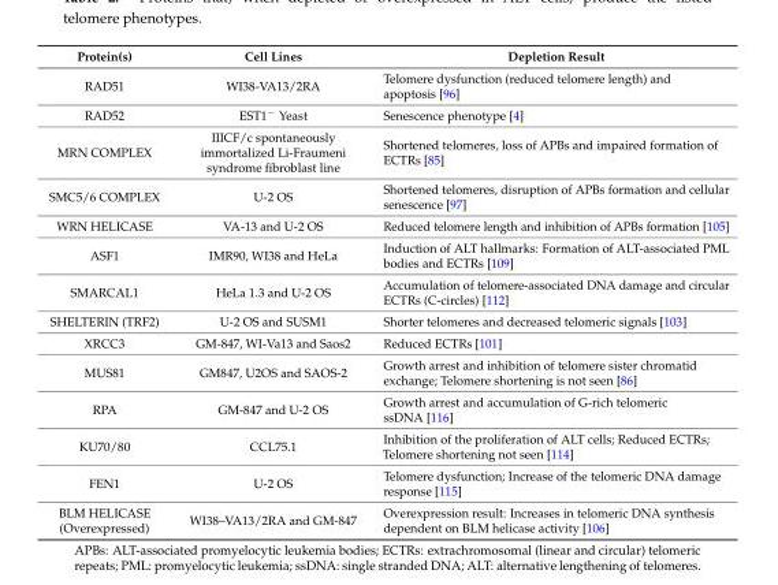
<table><thead><tr><td>Protein(s)</td><td>Cell Lines</td><td>Depletion Result</td></tr></thead><tbody><tr><td>RAD51</td><td>WI38-VA13/2RA</td><td>Telomere dysfunction (reduced telomere length) and apoptosis [96]</td></tr><tr><td>RAD52</td><td>EST1<sup>−</sup> Yeast</td><td>Senescence phenotype [4]</td></tr><tr><td>MRN COMPLEX</td><td>IIICF/c spontaneously immortalized Li-Fraumeni syndrome fibroblast line</td><td>Shortened telomeres, loss of APBs and impaired formation of ECTRs [85]</td></tr><tr><td>SMC5/6 COMPLEX</td><td>U-2 OS</td><td>Shortened telomeres, disruption of APBs formation and cellular senescence [97]</td></tr><tr><td>WRN HELICASE</td><td>VA-13 and U-2 OS</td><td>Reduced telomere length and inhibition of APBs formation [105]</td></tr><tr><td>ASF1</td><td>IMR90, WI38 and HeLa</td><td>Induction of ALT hallmarks: Formation of ALT-associated PML bodies and ECTRs [109]</td></tr><tr><td>SMARCAL1</td><td>HeLa 1.3 and U-2 OS</td><td>Accumulation of telomere-associated DNA damage and circular ECTRs (C-circles) [112]</td></tr><tr><td>SHELTERIN (TRF2)</td><td>U-2 OS and SUSM1</td><td>Shorter telomeres and decreased telomeric signals [103]</td></tr><tr><td>XRCC3</td><td>GM-847, WI-Va13 and Saos2</td><td>Reduced ECTRs [101]</td></tr><tr><td>MUS81</td><td>GM847, U2OS and SAOS-2</td><td>Growth arrest and inhibition of telomere sister chromatid exchange; Telomere shortening is not seen [86]</td></tr><tr><td>RPA</td><td>GM-847 and U-2 OS</td><td>Growth arrest and accumulation of G-rich telomeric ssDNA [116]</td></tr><tr><td>KU70/80</td><td>CCL75.1</td><td>Inhibition of the proliferation of ALT cells; Reduced ECTRs; Telomere shortening not seen [114]</td></tr><tr><td>FEN1</td><td>U-2 OS</td><td>Telomere dysfunction; Increase of the telomeric DNA damage response [115]</td></tr><tr><td>BLM HELICASE (Overexpressed)</td><td>WI38–VA13/2RA and GM-847</td><td>Overexpression result: Increases in telomeric DNA synthesis dependent on BLM helicase activity [106]</td></tr></tbody></table>